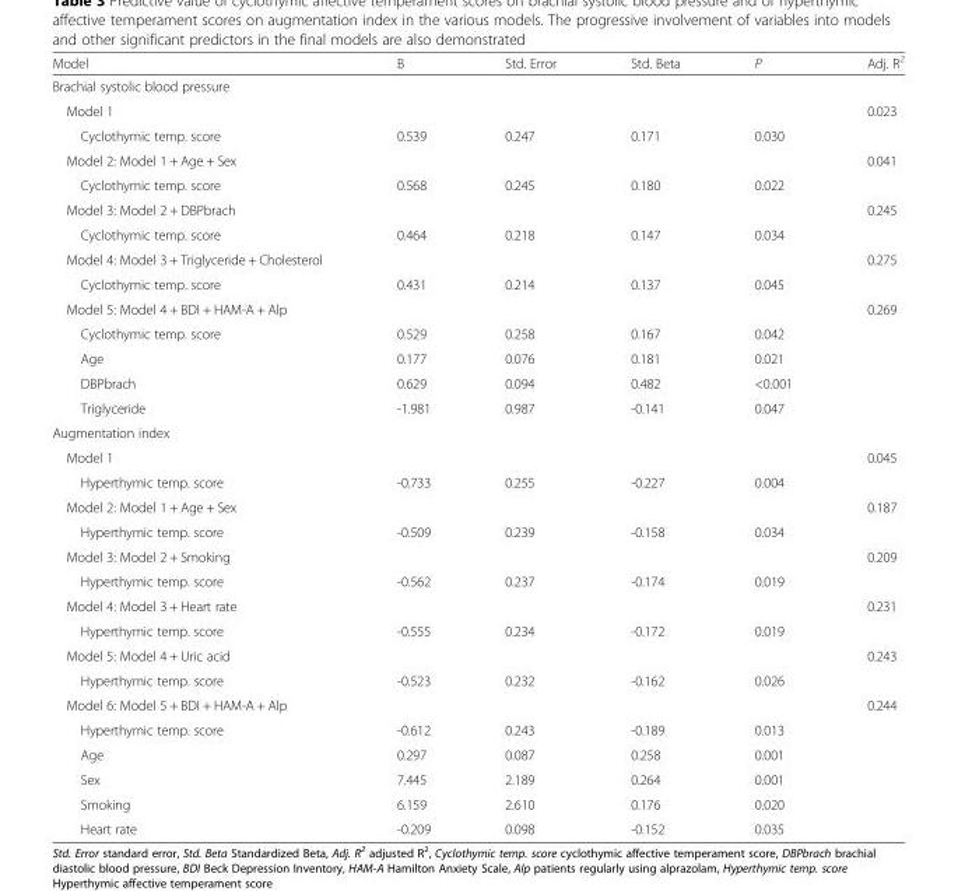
<table><thead><tr><td>Model</td><td>B</td><td>Std. Error</td><td>Std. Beta</td><td>P</td><td>Adj. R<sup>2</sup></td></tr></thead><tbody><tr><td colspan="6">Brachial systolic blood pressure</td></tr><tr><td>Model 1</td><td></td><td></td><td></td><td></td><td>0.023</td></tr><tr><td>Cyclothymic temp. score</td><td>0.539</td><td>0.247</td><td>0.171</td><td>0.030</td><td></td></tr><tr><td>Model 2: Model 1 + Age + Sex</td><td></td><td></td><td></td><td></td><td>0.041</td></tr><tr><td>Cyclothymic temp. score</td><td>0.568</td><td>0.245</td><td>0.180</td><td>0.022</td><td></td></tr><tr><td>Model 3: Model 2 + DBPbrach</td><td></td><td></td><td></td><td></td><td>0.245</td></tr><tr><td>Cyclothymic temp. score</td><td>0.464</td><td>0.218</td><td>0.147</td><td>0.034</td><td></td></tr><tr><td>Model 4: Model 3 + Triglyceride + Cholesterol</td><td></td><td></td><td></td><td></td><td>0.275</td></tr><tr><td>Cyclothymic temp. score</td><td>0.431</td><td>0.214</td><td>0.137</td><td>0.045</td><td></td></tr><tr><td>Model 5: Model 4 + BDI + HAM-A + Alp</td><td></td><td></td><td></td><td></td><td>0.269</td></tr><tr><td>Cyclothymic temp. score</td><td>0.529</td><td>0.258</td><td>0.167</td><td>0.042</td><td></td></tr><tr><td>Age</td><td>0.177</td><td>0.076</td><td>0.181</td><td>0.021</td><td></td></tr><tr><td>DBPbrach</td><td>0.629</td><td>0.094</td><td>0.482</td><td>&lt;0.001</td><td></td></tr><tr><td>Triglyceride</td><td>-1.981</td><td>0.987</td><td>-0.141</td><td>0.047</td><td></td></tr><tr><td colspan="6">Augmentation index</td></tr><tr><td>Model 1</td><td></td><td></td><td></td><td></td><td>0.045</td></tr><tr><td>Hyperthymic temp. score</td><td>-0.733</td><td>0.255</td><td>-0.227</td><td>0.004</td><td></td></tr><tr><td>Model 2: Model 1 + Age + Sex</td><td></td><td></td><td></td><td></td><td>0.187</td></tr><tr><td>Hyperthymic temp. score</td><td>-0.509</td><td>0.239</td><td>-0.158</td><td>0.034</td><td></td></tr><tr><td>Model 3: Model 2 + Smoking</td><td></td><td></td><td></td><td></td><td>0.209</td></tr><tr><td>Hyperthymic temp. score</td><td>-0.562</td><td>0.237</td><td>-0.174</td><td>0.019</td><td></td></tr><tr><td>Model 4: Model 3 + Heart rate</td><td></td><td></td><td></td><td></td><td>0.231</td></tr><tr><td>Hyperthymic temp. score</td><td>-0.555</td><td>0.234</td><td>-0.172</td><td>0.019</td><td></td></tr><tr><td>Model 5: Model 4 + Uric acid</td><td></td><td></td><td></td><td></td><td>0.243</td></tr><tr><td>Hyperthymic temp. score</td><td>-0.523</td><td>0.232</td><td>-0.162</td><td>0.026</td><td></td></tr><tr><td>Model 6: Model 5 + BDI + HAM-A + Alp</td><td></td><td></td><td></td><td></td><td>0.244</td></tr><tr><td>Hyperthymic temp. score</td><td>-0.612</td><td>0.243</td><td>-0.189</td><td>0.013</td><td></td></tr><tr><td>Age</td><td>0.297</td><td>0.087</td><td>0.258</td><td>0.001</td><td></td></tr><tr><td>Sex</td><td>7.445</td><td>2.189</td><td>0.264</td><td>0.001</td><td></td></tr><tr><td>Smoking</td><td>6.159</td><td>2.610</td><td>0.176</td><td>0.020</td><td></td></tr><tr><td>Heart rate</td><td>-0.209</td><td>0.098</td><td>-0.152</td><td>0.035</td><td></td></tr></tbody></table>